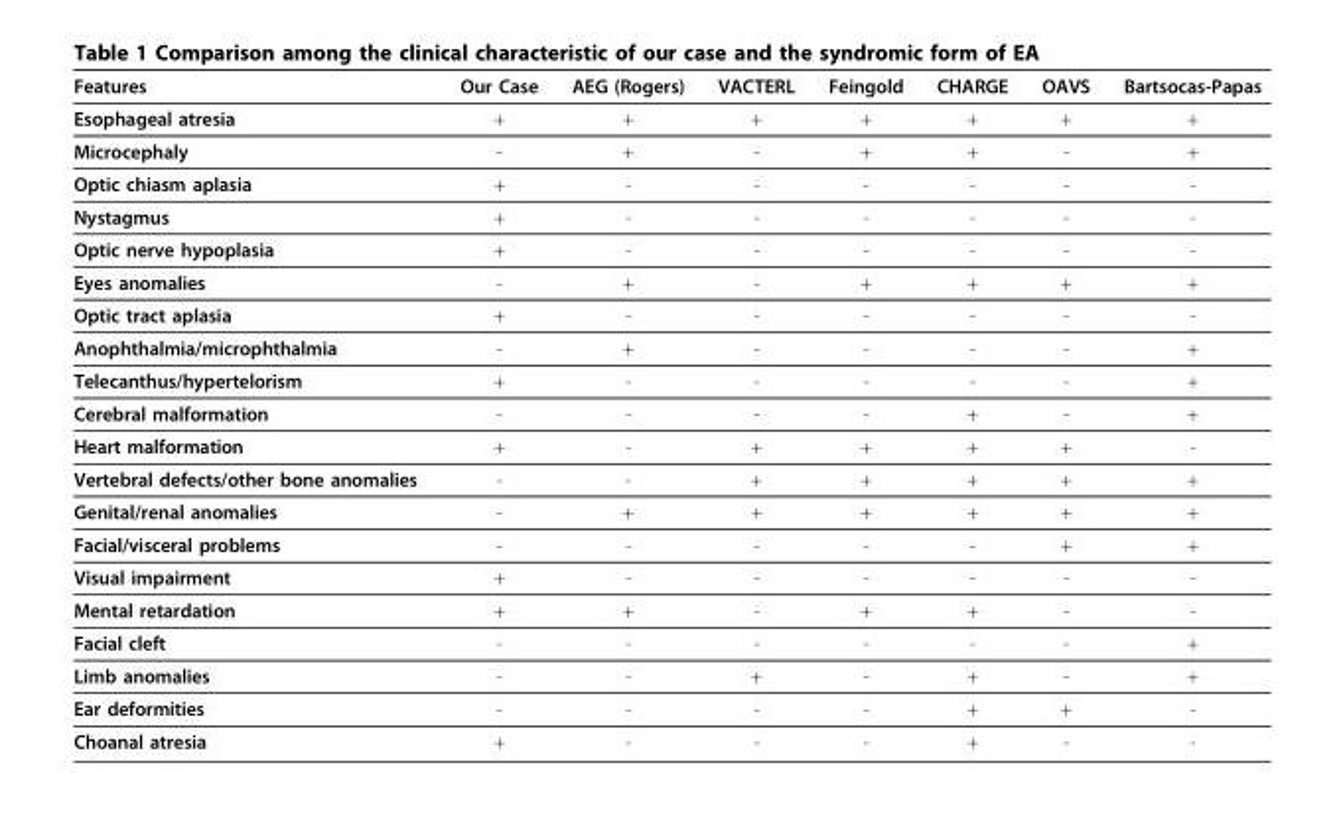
<table><thead><tr><td>Features</td><td>Our Case</td><td>AEG (Rogers)</td><td>VACTERL</td><td>Feingold</td><td>CHARGE</td><td>OAVS</td><td>Bartsocas-Papas</td></tr></thead><tbody><tr><td>Esophageal atresia</td><td>+</td><td>+</td><td>+</td><td>+</td><td>+</td><td>+</td><td>+</td></tr><tr><td>Microcephaly</td><td>-</td><td>+</td><td>-</td><td>+</td><td>+</td><td>-</td><td>+</td></tr><tr><td>Optic chiasm aplasia</td><td>+</td><td>-</td><td>-</td><td>-</td><td>-</td><td>-</td><td>-</td></tr><tr><td>Nystagmus</td><td>+</td><td>-</td><td>-</td><td>-</td><td>-</td><td>-</td><td>-</td></tr><tr><td>Optic nerve hypoplasia</td><td>+</td><td>-</td><td>-</td><td>-</td><td>-</td><td>-</td><td>-</td></tr><tr><td>Eyes anomalies</td><td>-</td><td>+</td><td>-</td><td>+</td><td>+</td><td>+</td><td>+</td></tr><tr><td>Optic tract aplasia</td><td>+</td><td>-</td><td>-</td><td>-</td><td>-</td><td>-</td><td>-</td></tr><tr><td>Anophthalmia/microphthalmia</td><td>-</td><td>+</td><td>-</td><td>-</td><td>-</td><td>-</td><td>+</td></tr><tr><td>Telecanthus/hypertelorism</td><td>+</td><td>-</td><td>-</td><td>-</td><td>-</td><td>-</td><td>+</td></tr><tr><td>Cerebral malformation</td><td>-</td><td>-</td><td>-</td><td>-</td><td>+</td><td>-</td><td>+</td></tr><tr><td>Heart malformation</td><td>+</td><td>-</td><td>+</td><td>+</td><td>+</td><td>+</td><td>-</td></tr><tr><td>Vertebral defects/other bone anomalies</td><td>-</td><td>-</td><td>+</td><td>+</td><td>+</td><td>+</td><td>+</td></tr><tr><td>Genital/renal anomalies</td><td>-</td><td>+</td><td>+</td><td>+</td><td>+</td><td>+</td><td>+</td></tr><tr><td>Facial/visceral problems</td><td>-</td><td>-</td><td>-</td><td>-</td><td>-</td><td>+</td><td>+</td></tr><tr><td>Visual impairment</td><td>+</td><td>-</td><td>-</td><td>-</td><td>-</td><td>-</td><td>-</td></tr><tr><td>Mental retardation</td><td>+</td><td>+</td><td>-</td><td>+</td><td>+</td><td>-</td><td>-</td></tr><tr><td>Facial cleft</td><td>-</td><td>-</td><td>-</td><td>-</td><td>-</td><td>-</td><td>+</td></tr><tr><td>Limb anomalies</td><td>-</td><td>-</td><td>+</td><td>-</td><td>+</td><td>-</td><td>+</td></tr><tr><td>Ear deformities</td><td>-</td><td>-</td><td>-</td><td>-</td><td>+</td><td>+</td><td>-</td></tr><tr><td>Choanal atresia</td><td>+</td><td>-</td><td>-</td><td>-</td><td>+</td><td>-</td><td>-</td></tr></tbody></table>